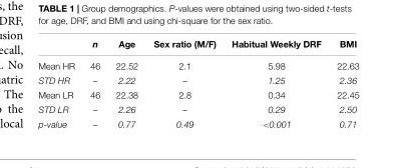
<table><thead><tr><td></td><td>n</td><td>Age</td><td>Sex ratio (M/F)</td><td>Habitual Weekly DRF</td><td>BMI</td></tr></thead><tbody><tr><td>Mean HR</td><td>46</td><td>22.52</td><td>2.1</td><td>5.98</td><td>22.63</td></tr><tr><td>STD HR</td><td>–</td><td>2.22</td><td>–</td><td>1.25</td><td>2.36</td></tr><tr><td>Mean LR</td><td>46</td><td>22.38</td><td>2.8</td><td>0.34</td><td>22.45</td></tr><tr><td>STD LR</td><td>–</td><td>2.26</td><td>–</td><td>0.29</td><td>2.50</td></tr><tr><td>p-value</td><td>–</td><td>0.77</td><td>0.49</td><td>&lt;0.001</td><td>0.71</td></tr></tbody></table>